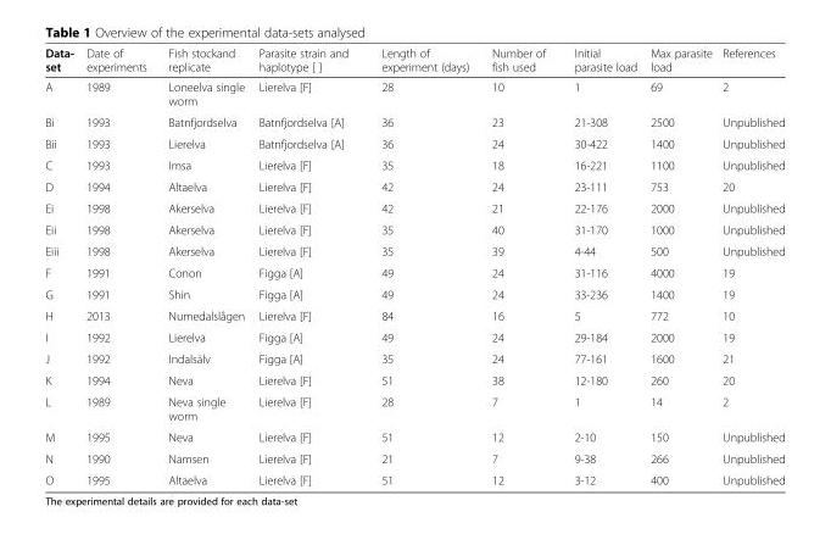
<table><thead><tr><td>Data- set</td><td>Date of experiments</td><td>Fish stockand replicate</td><td>Parasite strain and haplotype [ ]</td><td>Length of experiment (days)</td><td>Number of fish used</td><td>Initial parasite load</td><td>Max parasite load</td><td>References</td></tr></thead><tbody><tr><td>A</td><td>1989</td><td>Loneelva single worm</td><td>Lierelva [F]</td><td>28</td><td>10</td><td>1</td><td>69</td><td>2</td></tr><tr><td>Bi</td><td>1993</td><td>Batnfjordselva</td><td>Batnfjordselva [A]</td><td>36</td><td>23</td><td>21-308</td><td>2500</td><td>Unpublished</td></tr><tr><td>Bii</td><td>1993</td><td>Lierelva</td><td>Batnfjordselva [A]</td><td>36</td><td>24</td><td>30-422</td><td>1400</td><td>Unpublished</td></tr><tr><td>C</td><td>1993</td><td>Imsa</td><td>Lierelva [F]</td><td>35</td><td>18</td><td>16-221</td><td>1100</td><td>Unpublished</td></tr><tr><td>D</td><td>1994</td><td>Altaelva</td><td>Lierelva [F]</td><td>42</td><td>24</td><td>23-111</td><td>753</td><td>20</td></tr><tr><td>Ei</td><td>1998</td><td>Akerselva</td><td>Lierelva [F]</td><td>42</td><td>21</td><td>22-176</td><td>2000</td><td>Unpublished</td></tr><tr><td>Eii</td><td>1998</td><td>Akerselva</td><td>Lierelva [F]</td><td>35</td><td>40</td><td>31-170</td><td>1000</td><td>Unpublished</td></tr><tr><td>Eiii</td><td>1998</td><td>Akerselva</td><td>Lierelva [F]</td><td>35</td><td>39</td><td>4-44</td><td>500</td><td>Unpublished</td></tr><tr><td>F</td><td>1991</td><td>Conon</td><td>Figga [A]</td><td>49</td><td>24</td><td>31-116</td><td>4000</td><td>19</td></tr><tr><td>G</td><td>1991</td><td>Shin</td><td>Figga [A]</td><td>49</td><td>24</td><td>33-236</td><td>1400</td><td>19</td></tr><tr><td>H</td><td>2013</td><td>Numedalslågen</td><td>Lierelva [F]</td><td>84</td><td>16</td><td>5</td><td>772</td><td>10</td></tr><tr><td>I</td><td>1992</td><td>Lierelva</td><td>Figga [A]</td><td>49</td><td>24</td><td>29-184</td><td>2000</td><td>19</td></tr><tr><td>J</td><td>1992</td><td>Indalsälv</td><td>Figga [A]</td><td>35</td><td>24</td><td>77-161</td><td>1600</td><td>21</td></tr><tr><td>K</td><td>1994</td><td>Neva</td><td>Lierelva [F]</td><td>51</td><td>38</td><td>12-180</td><td>260</td><td>20</td></tr><tr><td>L</td><td>1989</td><td>Neva single worm</td><td>Lierelva [F]</td><td>28</td><td>7</td><td>1</td><td>14</td><td>2</td></tr><tr><td>M</td><td>1995</td><td>Neva</td><td>Lierelva [F]</td><td>51</td><td>12</td><td>2-10</td><td>150</td><td>Unpublished</td></tr><tr><td>N</td><td>1990</td><td>Namsen</td><td>Lierelva [F]</td><td>21</td><td>7</td><td>9-38</td><td>266</td><td>Unpublished</td></tr><tr><td>O</td><td>1995</td><td>Altaelva</td><td>Lierelva [F]</td><td>51</td><td>12</td><td>3-12</td><td>400</td><td>Unpublished</td></tr></tbody></table>